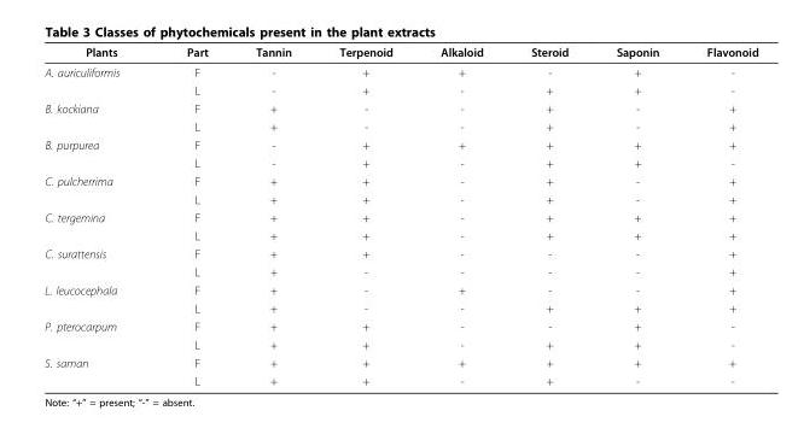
<table><thead><tr><td>Plants</td><td>Part</td><td>Tannin</td><td>Terpenoid</td><td>Alkaloid</td><td>Steroid</td><td>Saponin</td><td>Flavonoid</td></tr></thead><tbody><tr><td rowspan="2">A. auriculiformis</td><td>F</td><td>-</td><td>+</td><td>+</td><td>-</td><td>+</td><td>-</td></tr><tr><td>L</td><td>-</td><td>+</td><td>-</td><td>+</td><td>+</td><td>-</td></tr><tr><td rowspan="2">B. kockiana</td><td>F</td><td>+</td><td>-</td><td>-</td><td>+</td><td>-</td><td>+</td></tr><tr><td>L</td><td>+</td><td>-</td><td>-</td><td>+</td><td>-</td><td>+</td></tr><tr><td rowspan="2">B. purpurea</td><td>F</td><td>-</td><td>+</td><td>+</td><td>+</td><td>+</td><td>+</td></tr><tr><td>L</td><td>-</td><td>+</td><td>-</td><td>+</td><td>+</td><td>-</td></tr><tr><td rowspan="2">C. pulcherrima</td><td>F</td><td>+</td><td>+</td><td>-</td><td>+</td><td>-</td><td>+</td></tr><tr><td>L</td><td>+</td><td>+</td><td>-</td><td>+</td><td>-</td><td>+</td></tr><tr><td rowspan="2">C. tergemina</td><td>F</td><td>+</td><td>+</td><td>-</td><td>+</td><td>+</td><td>+</td></tr><tr><td>L</td><td>+</td><td>+</td><td>-</td><td>+</td><td>+</td><td>+</td></tr><tr><td rowspan="2">C. surattensis</td><td>F</td><td>+</td><td>+</td><td>-</td><td>-</td><td>-</td><td>+</td></tr><tr><td>L</td><td>+</td><td>-</td><td>-</td><td>-</td><td>-</td><td>+</td></tr><tr><td rowspan="2">L. leucocephala</td><td>F</td><td>+</td><td>-</td><td>+</td><td>-</td><td>-</td><td>+</td></tr><tr><td>L</td><td>+</td><td>-</td><td>-</td><td>+</td><td>+</td><td>+</td></tr><tr><td rowspan="2">P. pterocarpum</td><td>F</td><td>+</td><td>+</td><td>-</td><td>-</td><td>+</td><td>-</td></tr><tr><td>L</td><td>+</td><td>+</td><td>-</td><td>+</td><td>+</td><td>-</td></tr><tr><td rowspan="2">S. saman</td><td>F</td><td>+</td><td>+</td><td>+</td><td>+</td><td>+</td><td>+</td></tr><tr><td>L</td><td>+</td><td>+</td><td>-</td><td>+</td><td>-</td><td>-</td></tr></tbody></table>